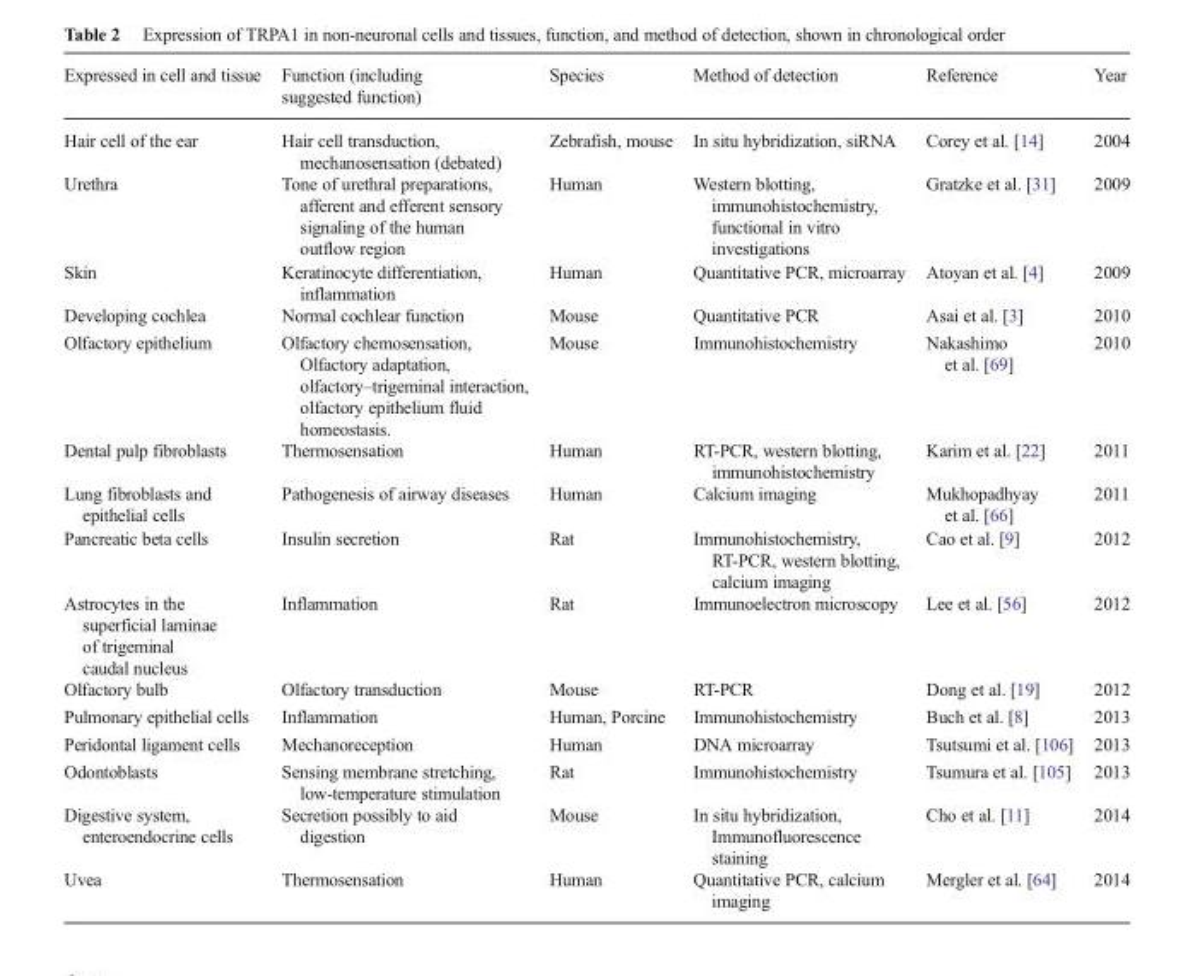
<table><thead><tr><td>Expressed in cell and tissue</td><td>Function (including suggested function)</td><td>Species</td><td>Method of detection</td><td>Reference</td><td>Year</td></tr></thead><tbody><tr><td>Hair cell of the ear</td><td>Hair cell transduction, mechanosensation (debated)</td><td>Zebrafish, mouse</td><td>In situ hybridization, siRNA</td><td>Corey et al. [14]</td><td>2004</td></tr><tr><td>Urethra</td><td>Tone of urethral preparations, afferent and efferent sensory signaling of the human outflow region</td><td>Human</td><td>Western blotting, immunohistochemistry, functional in vitro investigations</td><td>Gratzke et al. [31]</td><td>2009</td></tr><tr><td>Skin</td><td>Keratinocyte differentiation, inflammation</td><td>Human</td><td>Quantitative PCR, microarray</td><td>Atoyan et al. [4]</td><td>2009</td></tr><tr><td>Developing cochlea</td><td>Normal cochlear function</td><td>Mouse</td><td>Quantitative PCR</td><td>Asai et al. [3]</td><td>2010</td></tr><tr><td>Olfactory epithelium</td><td>Olfactory chemosensation, Olfactory adaptation, olfactory–trigeminal interaction, olfactory epithelium fluid homeostasis.</td><td>Mouse</td><td>Immunohistochemistry</td><td>Nakashimo et al. [69]</td><td>2010</td></tr><tr><td>Dental pulp fibroblasts</td><td>Thermosensation</td><td>Human</td><td>RT-PCR, western blotting, immunohistochemistry</td><td>Karim et al. [22]</td><td>2011</td></tr><tr><td>Lung fibroblasts and epithelial cells</td><td>Pathogenesis of airway diseases</td><td>Human</td><td>Calcium imaging</td><td>Mukhopadhyay et al. [66]</td><td>2011</td></tr><tr><td>Pancreatic beta cells</td><td>Insulin secretion</td><td>Rat</td><td>Immunohistochemistry, RT-PCR, western blotting, calcium imaging</td><td>Cao et al. [9]</td><td>2012</td></tr><tr><td>Astrocytes in the superficial laminae of trigeminal caudal nucleus</td><td>Inflammation</td><td>Rat</td><td>Immunoelectron microscopy</td><td>Lee et al. [56]</td><td>2012</td></tr><tr><td>Olfactory bulb</td><td>Olfactory transduction</td><td>Mouse</td><td>RT-PCR</td><td>Dong et al. [19]</td><td>2012</td></tr><tr><td>Pulmonary epithelial cells</td><td>Inflammation</td><td>Human, Porcine</td><td>Immunohistochemistry</td><td>Buch et al. [8]</td><td>2013</td></tr><tr><td>Peridontal ligament cells</td><td>Mechanoreception</td><td>Human</td><td>DNA microarray</td><td>Tsutsumi et al. [106]</td><td>2013</td></tr><tr><td>Odontoblasts</td><td>Sensing membrane stretching, low-temperature stimulation</td><td>Rat</td><td>Immunohistochemistry</td><td>Tsumura et al. [105]</td><td>2013</td></tr><tr><td>Digestive system, enteroendocrine cells</td><td>Secretion possibly to aid digestion</td><td>Mouse</td><td>In situ hybridization, Immunofluorescence staining</td><td>Cho et al. [11]</td><td>2014</td></tr><tr><td>Uvea</td><td>Thermosensation</td><td>Human</td><td>Quantitative PCR, calcium imaging</td><td>Mergler et al. [64]</td><td>2014</td></tr></tbody></table>